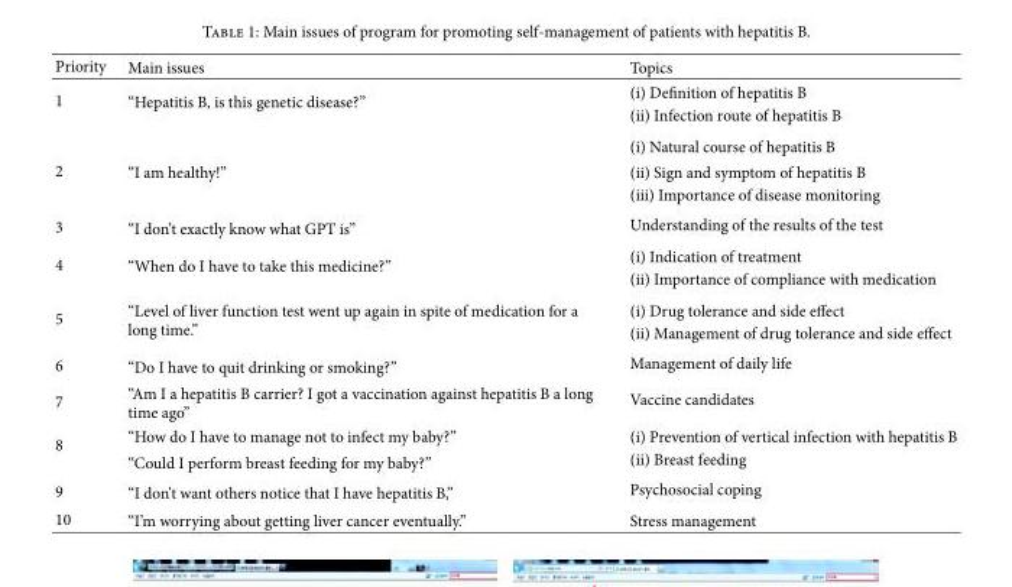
<table><thead><tr><td>Priority</td><td>Main issues</td><td>Topics</td></tr></thead><tbody><tr><td rowspan="3">1</td><td rowspan="2">“Hepatitis B, is this genetic disease?”</td><td>(i) De�nition of hepatitis B</td></tr><tr><td>(ii) Infection route of hepatitis B</td></tr><tr><td></td><td>(i) Natural course of hepatitis B</td></tr><tr><td rowspan="2">2</td><td>“I am healthy!”</td><td>(ii) Sign and symptom of hepatitis B</td></tr><tr><td></td><td>(iii) Importance of disease monitoring</td></tr><tr><td>3</td><td>“I don’t exactly know what GPT is”</td><td>Understanding of the results of the test</td></tr><tr><td rowspan="2">4</td><td rowspan="2">“When do I have to take this medicine?”</td><td>(i) Indication of treatment</td></tr><tr><td>(ii) Importance of compliance with medication</td></tr><tr><td rowspan="2">5</td><td rowspan="2">“Level of liver function test went up again in spite of medication for a long time.”</td><td>(i) Drug tolerance and side effect</td></tr><tr><td>(ii) Management of drug tolerance and side effect</td></tr><tr><td>6</td><td>“Do I have to quit drinking or smoking?”</td><td>Management of daily life</td></tr><tr><td>7</td><td>“Am I a hepatitis B carrier? I got a vaccination against hepatitis B a long time ago”</td><td>Vaccine candidates</td></tr><tr><td rowspan="2">8</td><td>“How do I have to manage not to infect my baby?”</td><td>(i) Prevention of vertical infection with hepatitis B</td></tr><tr><td>“Could I perform breast feeding for my baby?”</td><td>(ii) Breast feeding</td></tr><tr><td>9</td><td>“I don’t want others notice that I have hepatitis B,”</td><td>Psychosocial coping</td></tr><tr><td>10</td><td>“I’m worrying about getting liver cancer eventually.”</td><td>Stress management</td></tr></tbody></table>